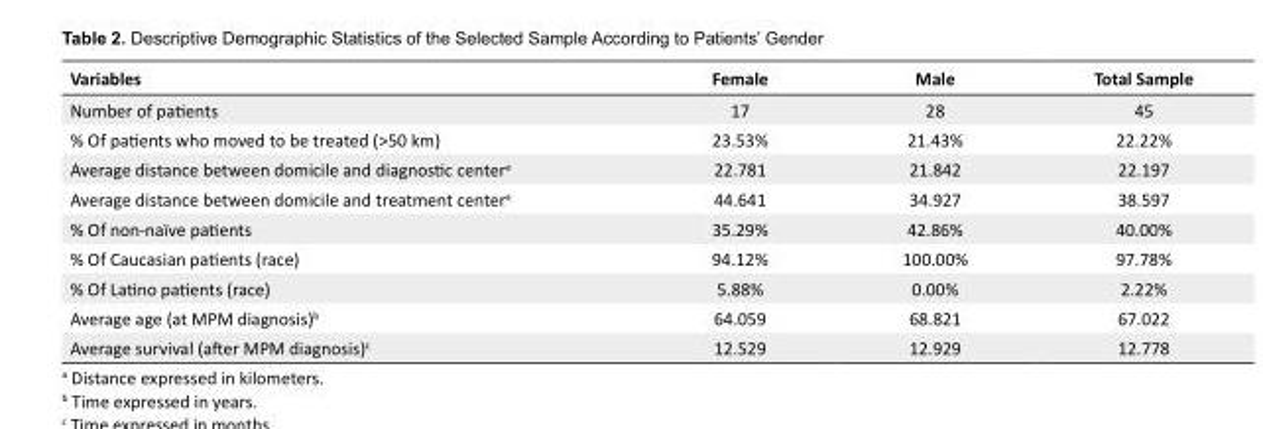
<table><tbody><tr><td>Variables</td><td>Female</td><td>Male</td><td>Total Sample</td></tr><tr><td>Number of patients</td><td>17</td><td>28</td><td>45</td></tr><tr><td>% Of patients who moved to be treated (&gt;50 km)</td><td>23.53%</td><td>21.43%</td><td>22.22%</td></tr><tr><td>Average distance between domicile and diagnostic center<sup>a</sup></td><td>22.781</td><td>21.842</td><td>22.197</td></tr><tr><td>Average distance between domicile and treatment center<sup>a</sup></td><td>44.641</td><td>34.927</td><td>38.597</td></tr><tr><td>% Of non-naïve patients</td><td>35.29%</td><td>42.86%</td><td>40.00%</td></tr><tr><td>% Of Caucasian patients (race)</td><td>94.12%</td><td>100.00%</td><td>97.78%</td></tr><tr><td>% Of Latino patients (race)</td><td>5.88%</td><td>0.00%</td><td>2.22%</td></tr><tr><td>Average age (at MPM diagnosis)<sup>b</sup></td><td>64.059</td><td>68.821</td><td>67.022</td></tr><tr><td>Average survival (after MPM diagnosis)<sup>c</sup></td><td>12.529</td><td>12.929</td><td>12.778</td></tr></tbody></table>